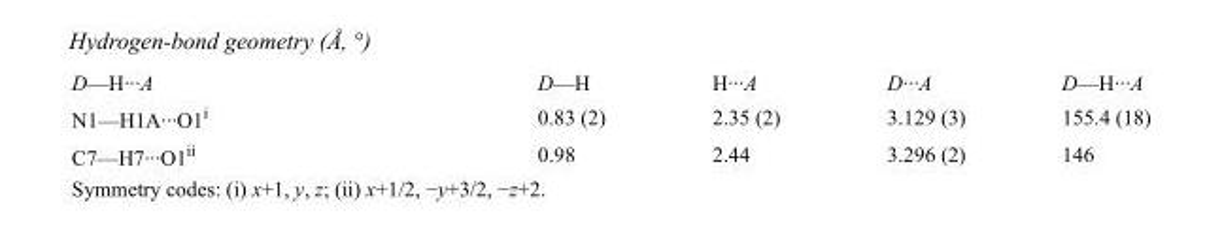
<table><tbody><tr><td>D—H···A</td><td>D—H</td><td>H···A</td><td>D···A</td><td>D—H···A</td></tr><tr><td>N1—H1A···O1<sup>i</sup></td><td>0.83 (2)</td><td>2.35 (2)</td><td>3.129 (3)</td><td>155.4 (18)</td></tr><tr><td>C7—H7···O1<sup>ii</sup></td><td>0.98</td><td>2.44</td><td>3.296 (2)</td><td>146</td></tr></tbody></table>